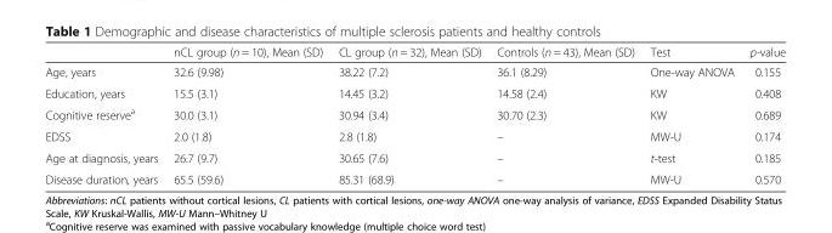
<table><thead><tr><td></td><td>nCL group (n = 10), Mean (SD)</td><td>CL group (n = 32), Mean (SD)</td><td>Controls (n = 43), Mean (SD)</td><td>Test</td><td>p-value</td></tr></thead><tbody><tr><td>Age, years</td><td>32.6 (9.98)</td><td>38.22 (7.2)</td><td>36.1 (8.29)</td><td>One-way ANOVA</td><td>0.155</td></tr><tr><td>Education, years</td><td>15.5 (3.1)</td><td>14.45 (3.2)</td><td>14.58 (2.4)</td><td>KW</td><td>0.408</td></tr><tr><td>Cognitive reserve<sup>a</sup></td><td>30.0 (3.1)</td><td>30.94 (3.4)</td><td>30.70 (2.3)</td><td>KW</td><td>0.689</td></tr><tr><td>EDSS</td><td>2.0 (1.8)</td><td>2.8 (1.8)</td><td>–</td><td>MW-U</td><td>0.174</td></tr><tr><td>Age at diagnosis, years</td><td>26.7 (9.7)</td><td>30.65 (7.6)</td><td>–</td><td>t-test</td><td>0.185</td></tr><tr><td>Disease duration, years</td><td>65.5 (59.6)</td><td>85.31 (68.9)</td><td>–</td><td>MW-U</td><td>0.570</td></tr></tbody></table>